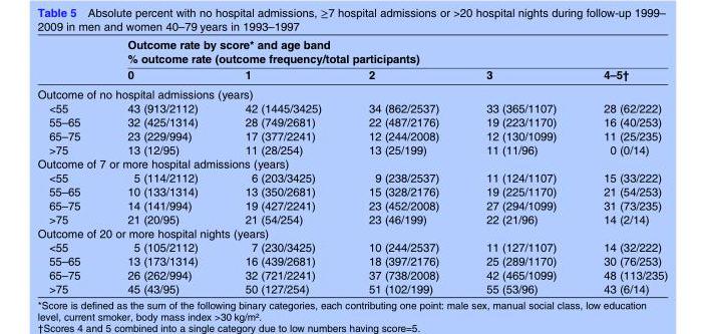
<table><thead><tr><td rowspan="2"></td><td colspan="5">Outcome rate by score* and age band % outcome rate (outcome frequency/total participants)</td></tr><tr><td>0</td><td>1</td><td>2</td><td>3</td><td>4–5†</td></tr></thead><tbody><tr><td colspan="6">Outcome of no hospital admissions (years)</td></tr><tr><td>&lt;55</td><td>43 (913/2112)</td><td>42 (1445/3425)</td><td>34 (862/2537)</td><td>33 (365/1107)</td><td>28 (62/222)</td></tr><tr><td>55–65</td><td>32 (425/1314)</td><td>28 (749/2681)</td><td>22 (487/2176)</td><td>19 (223/1170)</td><td>16 (40/253)</td></tr><tr><td>65–75</td><td>23 (229/994)</td><td>17 (377/2241)</td><td>12 (244/2008)</td><td>12 (130/1099)</td><td>11 (25/235)</td></tr><tr><td>&gt;75</td><td>13 (12/95)</td><td>11 (28/254)</td><td>13 (25/199)</td><td>11 (11/96)</td><td>0 (0/14)</td></tr><tr><td colspan="6">Outcome of 7 or more hospital admissions (years)</td></tr><tr><td>&lt;55</td><td>5 (114/2112)</td><td>6 (203/3425)</td><td>9 (238/2537)</td><td>11 (124/1107)</td><td>15 (33/222)</td></tr><tr><td>55–65</td><td>10 (133/1314)</td><td>13 (350/2681)</td><td>15 (328/2176)</td><td>19 (225/1170)</td><td>21 (54/253)</td></tr><tr><td>65–75</td><td>14 (141/994)</td><td>19 (427/2241)</td><td>23 (452/2008)</td><td>27 (294/1099)</td><td>31 (73/235)</td></tr><tr><td>&gt;75</td><td>21 (20/95)</td><td>21 (54/254)</td><td>23 (46/199)</td><td>22 (21/96)</td><td>14 (2/14)</td></tr><tr><td colspan="6">Outcome of 20 or more hospital nights (years)</td></tr><tr><td>&lt;55</td><td>5 (105/2112)</td><td>7 (230/3425)</td><td>10 (244/2537)</td><td>11 (127/1107)</td><td>14 (32/222)</td></tr><tr><td>55–65</td><td>13 (173/1314)</td><td>16 (439/2681)</td><td>18 (397/2176)</td><td>25 (289/1170)</td><td>30 (76/253)</td></tr><tr><td>65–75</td><td>26 (262/994)</td><td>32 (721/2241)</td><td>37 (738/2008)</td><td>42 (465/1099)</td><td>48 (113/235)</td></tr><tr><td>&gt;75</td><td>45 (43/95)</td><td>50 (127/254)</td><td>51 (102/199)</td><td>55 (53/96)</td><td>43 (6/14)</td></tr></tbody></table>